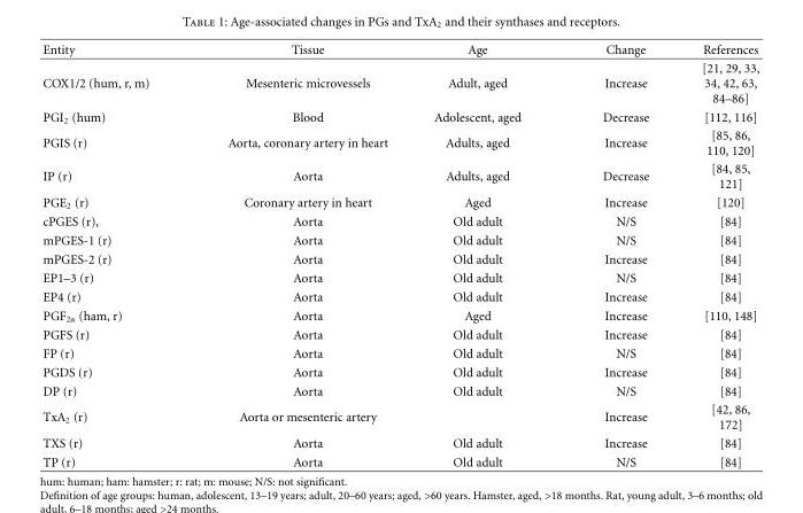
<table><thead><tr><td>Entity</td><td>Tissue</td><td>Age</td><td>Change</td><td>References</td></tr></thead><tbody><tr><td>COX1/2 (hum, r, m)</td><td>Mesenteric microvessels</td><td>Adult, aged</td><td>Increase</td><td>[21, 29, 33, 34, 42, 63, 84–86]</td></tr><tr><td>PGI<sub>2</sub> (hum)</td><td>Blood</td><td>Adolescent, aged</td><td>Decrease</td><td>[112, 116]</td></tr><tr><td>PGIS (r)</td><td>Aorta, coronary artery in heart</td><td>Adults, aged</td><td>Increase</td><td>[85, 86, 110, 120]</td></tr><tr><td>IP (r)</td><td>Aorta</td><td>Adults, aged</td><td>Decrease</td><td>[84, 85, 121]</td></tr><tr><td>PGE<sub>2</sub> (r)</td><td>Coronary artery in heart</td><td>Aged</td><td>Increase</td><td>[120]</td></tr><tr><td>cPGES (r),</td><td>Aorta</td><td>Old adult</td><td>N/S</td><td>[84]</td></tr><tr><td>mPGES-1 (r)</td><td>Aorta</td><td>Old adult</td><td>N/S</td><td>[84]</td></tr><tr><td>mPGES-2 (r)</td><td>Aorta</td><td>Old adult</td><td>Increase</td><td>[84]</td></tr><tr><td>EP1–3 (r)</td><td>Aorta</td><td>Old adult</td><td>N/S</td><td>[84]</td></tr><tr><td>EP4 (r)</td><td>Aorta</td><td>Old adult</td><td>Increase</td><td>[84]</td></tr><tr><td>PGF<sub>2α</sub> (ham, r)</td><td>Aorta</td><td>Aged</td><td>Increase</td><td>[110, 148]</td></tr><tr><td>PGFS (r)</td><td>Aorta</td><td>Old adult</td><td>Increase</td><td>[84]</td></tr><tr><td>FP (r)</td><td>Aorta</td><td>Old adult</td><td>N/S</td><td>[84]</td></tr><tr><td>PGDS (r)</td><td>Aorta</td><td>Old adult</td><td>Increase</td><td>[84]</td></tr><tr><td>DP (r)</td><td>Aorta</td><td>Old adult</td><td>N/S</td><td>[84]</td></tr><tr><td>TxA<sub>2</sub> (r)</td><td>Aorta or mesenteric artery</td><td></td><td>Increase</td><td>[42, 86, 172]</td></tr><tr><td>TXS (r)</td><td>Aorta</td><td>Old adult</td><td>Increase</td><td>[84]</td></tr><tr><td>TP (r)</td><td>Aorta</td><td>Old adult</td><td>N/S</td><td>[84]</td></tr></tbody></table>